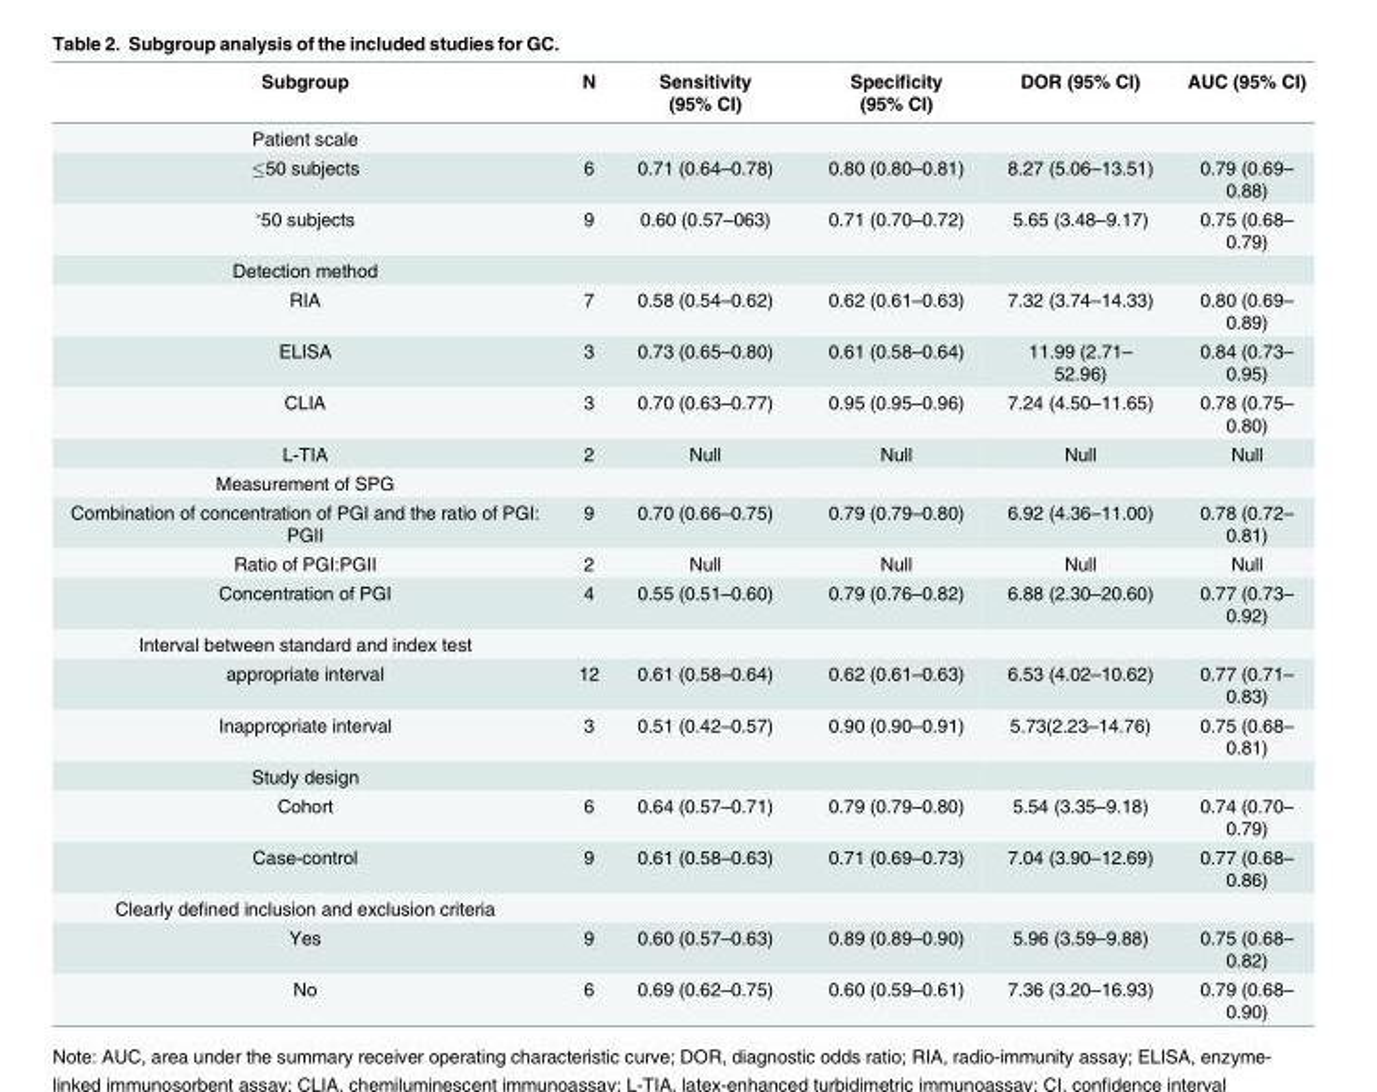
<table><thead><tr><td>Subgroup</td><td>N</td><td>Sensitivity (95% CI)</td><td>Specificity (95% CI)</td><td>DOR (95% CI)</td><td>AUC (95% CI)</td></tr></thead><tbody><tr><td colspan="6">Patient scale</td></tr><tr><td>≤50 subjects</td><td>6</td><td>0.71 (0.64–0.78)</td><td>0.80 (0.80–0.81)</td><td>8.27 (5.06–13.51)</td><td>0.79 (0.69– 0.88)</td></tr><tr><td>˃50 subjects</td><td>9</td><td>0.60 (0.57–063)</td><td>0.71 (0.70–0.72)</td><td>5.65 (3.48–9.17)</td><td>0.75 (0.68– 0.79)</td></tr><tr><td colspan="6">Detection method</td></tr><tr><td>RIA</td><td>7</td><td>0.58 (0.54–0.62)</td><td>0.62 (0.61–0.63)</td><td>7.32 (3.74–14.33)</td><td>0.80 (0.69– 0.89)</td></tr><tr><td>ELISA</td><td>3</td><td>0.73 (0.65–0.80)</td><td>0.61 (0.58–0.64)</td><td>11.99 (2.71– 52.96)</td><td>0.84 (0.73– 0.95)</td></tr><tr><td>CLIA</td><td>3</td><td>0.70 (0.63–0.77)</td><td>0.95 (0.95–0.96)</td><td>7.24 (4.50–11.65)</td><td>0.78 (0.75– 0.80)</td></tr><tr><td>L-TIA</td><td>2</td><td>Null</td><td>Null</td><td>Null</td><td>Null</td></tr><tr><td colspan="6">Measurement of SPG</td></tr><tr><td>Combination of concentration of PGI and the ratio of PGI: PGII</td><td>9</td><td>0.70 (0.66–0.75)</td><td>0.79 (0.79–0.80)</td><td>6.92 (4.36–11.00)</td><td>0.78 (0.72– 0.81)</td></tr><tr><td>Ratio of PGI:PGII</td><td>2</td><td>Null</td><td>Null</td><td>Null</td><td>Null</td></tr><tr><td>Concentration of PGI</td><td>4</td><td>0.55 (0.51–0.60)</td><td>0.79 (0.76–0.82)</td><td>6.88 (2.30–20.60)</td><td>0.77 (0.73– 0.92)</td></tr><tr><td colspan="6">Interval between standard and index test</td></tr><tr><td>appropriate interval</td><td>12</td><td>0.61 (0.58–0.64)</td><td>0.62 (0.61–0.63)</td><td>6.53 (4.02–10.62)</td><td>0.77 (0.71– 0.83)</td></tr><tr><td>Inappropriate interval</td><td>3</td><td>0.51 (0.42–0.57)</td><td>0.90 (0.90–0.91)</td><td>5.73(2.23–14.76)</td><td>0.75 (0.68– 0.81)</td></tr><tr><td colspan="6">Study design</td></tr><tr><td>Cohort</td><td>6</td><td>0.64 (0.57–0.71)</td><td>0.79 (0.79–0.80)</td><td>5.54 (3.35–9.18)</td><td>0.74 (0.70– 0.79)</td></tr><tr><td>Case-control</td><td>9</td><td>0.61 (0.58–0.63)</td><td>0.71 (0.69–0.73)</td><td>7.04 (3.90–12.69)</td><td>0.77 (0.68– 0.86)</td></tr><tr><td colspan="6">Clearly defined inclusion and exclusion criteria</td></tr><tr><td>Yes</td><td>9</td><td>0.60 (0.57–0.63)</td><td>0.89 (0.89–0.90)</td><td>5.96 (3.59–9.88)</td><td>0.75 (0.68– 0.82)</td></tr><tr><td>No</td><td>6</td><td>0.69 (0.62–0.75)</td><td>0.60 (0.59–0.61)</td><td>7.36 (3.20–16.93)</td><td>0.79 (0.68– 0.90)</td></tr></tbody></table>